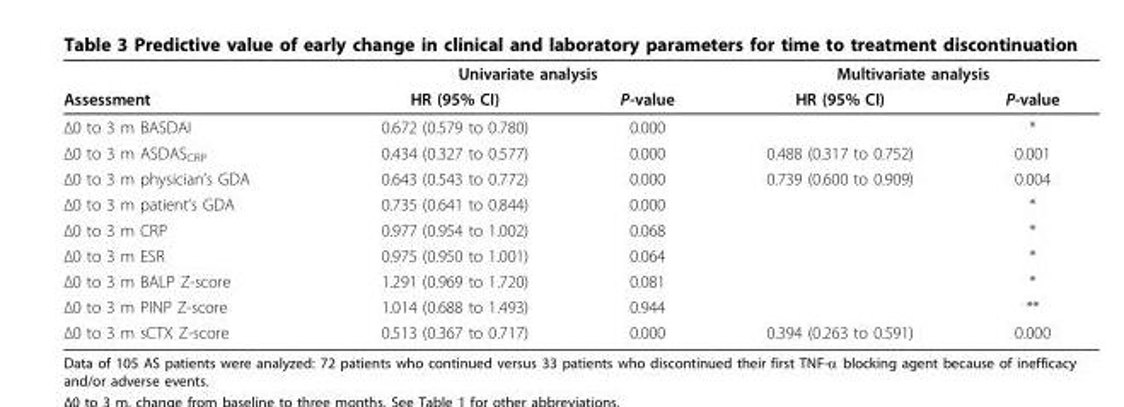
<table><thead><tr><td rowspan="2">Assessment</td><td colspan="2">Univariate analysis</td><td colspan="2">Multivariate analysis</td></tr><tr><td>HR (95% CI)</td><td>P-value</td><td>HR (95% CI)</td><td>P-value</td></tr></thead><tbody><tr><td>Δ0 to 3 m BASDAI</td><td>0.672 (0.579 to 0.780)</td><td>0.000</td><td></td><td>*</td></tr><tr><td>Δ0 to 3 m ASDAS<sub>CRP</sub></td><td>0.434 (0.327 to 0.577)</td><td>0.000</td><td>0.488 (0.317 to 0.752)</td><td>0.001</td></tr><tr><td>Δ0 to 3 m physician’s GDA</td><td>0.643 (0.543 to 0.772)</td><td>0.000</td><td>0.739 (0.600 to 0.909)</td><td>0.004</td></tr><tr><td>Δ0 to 3 m patient’s GDA</td><td>0.735 (0.641 to 0.844)</td><td>0.000</td><td></td><td>*</td></tr><tr><td>Δ0 to 3 m CRP</td><td>0.977 (0.954 to 1.002)</td><td>0.068</td><td></td><td>*</td></tr><tr><td>Δ0 to 3 m ESR</td><td>0.975 (0.950 to 1.001)</td><td>0.064</td><td></td><td>*</td></tr><tr><td>Δ0 to 3 m BALP Z-score</td><td>1.291 (0.969 to 1.720)</td><td>0.081</td><td></td><td>*</td></tr><tr><td>Δ0 to 3 m PINP Z-score</td><td>1.014 (0.688 to 1.493)</td><td>0.944</td><td></td><td>**</td></tr><tr><td>Δ0 to 3 m sCTX Z-score</td><td>0.513 (0.367 to 0.717)</td><td>0.000</td><td>0.394 (0.263 to 0.591)</td><td>0.000</td></tr></tbody></table>